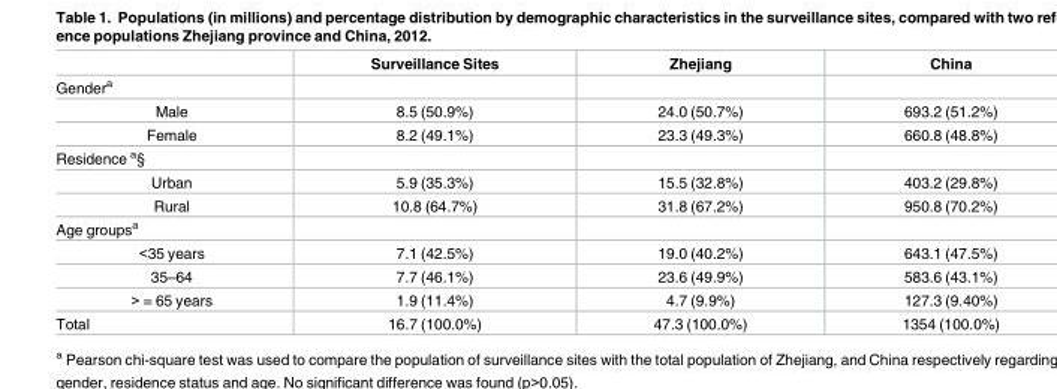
<table><thead><tr><td></td><td>Surveillance Sites</td><td>Zhejiang</td><td>China</td></tr></thead><tbody><tr><td colspan="4">Gender<sup>a</sup></td></tr><tr><td>Male</td><td>8.5 (50.9%)</td><td>24.0 (50.7%)</td><td>693.2 (51.2%)</td></tr><tr><td>Female</td><td>8.2 (49.1%)</td><td>23.3 (49.3%)</td><td>660.8 (48.8%)</td></tr><tr><td colspan="4">Residence <sup>a</sup>§</td></tr><tr><td>Urban</td><td>5.9 (35.3%)</td><td>15.5 (32.8%)</td><td>403.2 (29.8%)</td></tr><tr><td>Rural</td><td>10.8 (64.7%)</td><td>31.8 (67.2%)</td><td>950.8 (70.2%)</td></tr><tr><td colspan="4">Age groups<sup>a</sup></td></tr><tr><td>&lt;35 years</td><td>7.1 (42.5%)</td><td>19.0 (40.2%)</td><td>643.1 (47.5%)</td></tr><tr><td>35–64</td><td>7.7 (46.1%)</td><td>23.6 (49.9%)</td><td>583.6 (43.1%)</td></tr><tr><td>&gt; = 65 years</td><td>1.9 (11.4%)</td><td>4.7 (9.9%)</td><td>127.3 (9.40%)</td></tr><tr><td>Total</td><td>16.7 (100.0%)</td><td>47.3 (100.0%)</td><td>1354 (100.0%)</td></tr></tbody></table>